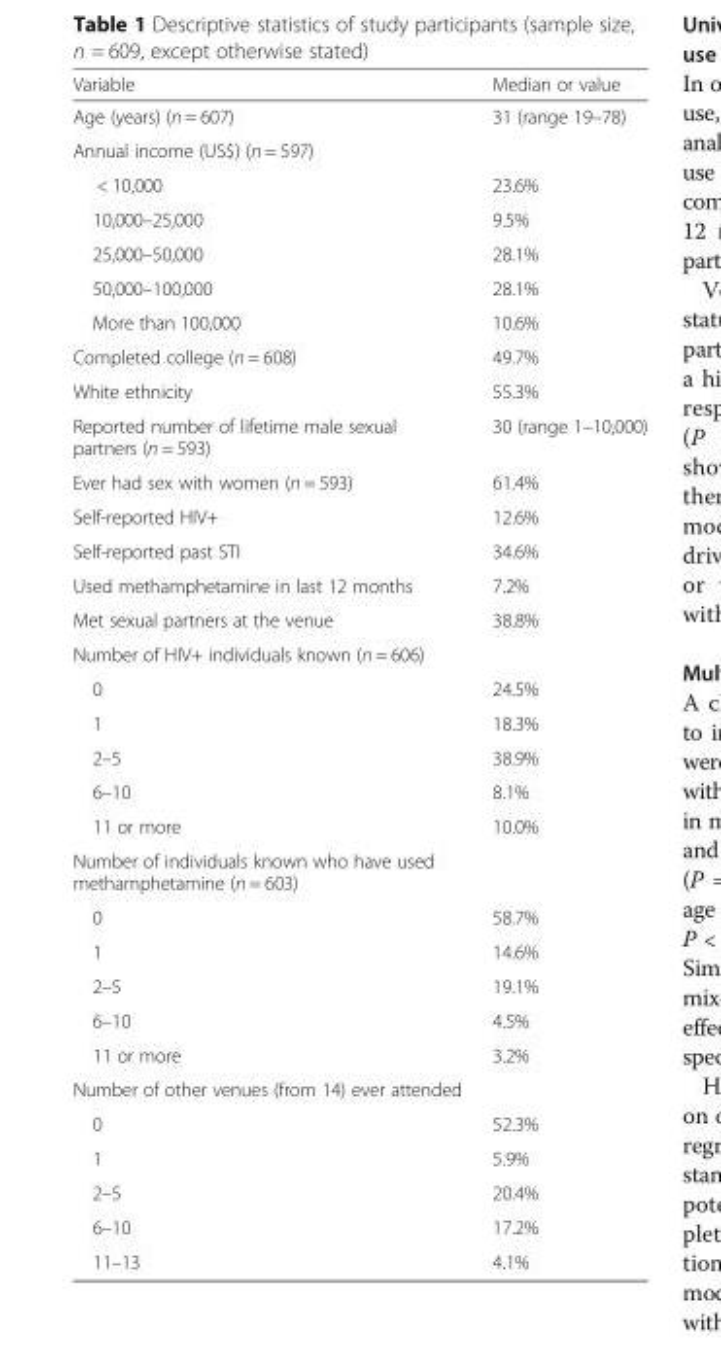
<table><thead><tr><td>Variable</td><td>Median or value</td></tr></thead><tbody><tr><td>Age (years) (n = 607)</td><td>31 (range 19–78)</td></tr><tr><td colspan="2">Annual income (US$) (n = 597)</td></tr><tr><td>&lt; 10,000</td><td>23.6%</td></tr><tr><td>10,000–25,000</td><td>9.5%</td></tr><tr><td>25,000–50,000</td><td>28.1%</td></tr><tr><td>50,000–100,000</td><td>28.1%</td></tr><tr><td>More than 100,000</td><td>10.6%</td></tr><tr><td>Completed college (n = 608)</td><td>49.7%</td></tr><tr><td>White ethnicity</td><td>55.3%</td></tr><tr><td>Reported number of lifetime male sexual partners (n = 593)</td><td>30 (range 1–10,000)</td></tr><tr><td>Ever had sex with women (n = 593)</td><td>61.4%</td></tr><tr><td>Self-reported HIV+</td><td>12.6%</td></tr><tr><td>Self-reported past STI</td><td>34.6%</td></tr><tr><td>Used methamphetamine in last 12 months</td><td>7.2%</td></tr><tr><td>Met sexual partners at the venue</td><td>38.8%</td></tr><tr><td colspan="2">Number of HIV+ individuals known (n = 606)</td></tr><tr><td>0</td><td>24.5%</td></tr><tr><td>1</td><td>18.3%</td></tr><tr><td>2–5</td><td>38.9%</td></tr><tr><td>6–10</td><td>8.1%</td></tr><tr><td>11 or more</td><td>10.0%</td></tr><tr><td colspan="2">Number of individuals known who have used methamphetamine (n = 603)</td></tr><tr><td>0</td><td>58.7%</td></tr><tr><td>1</td><td>14.6%</td></tr><tr><td>2–5</td><td>19.1%</td></tr><tr><td>6–10</td><td>4.5%</td></tr><tr><td>11 or more</td><td>3.2%</td></tr><tr><td colspan="2">Number of other venues (from 14) ever attended</td></tr><tr><td>0</td><td>52.3%</td></tr><tr><td>1</td><td>5.9%</td></tr><tr><td>2–5</td><td>20.4%</td></tr><tr><td>6–10</td><td>17.2%</td></tr><tr><td>11–13</td><td>4.1%</td></tr></tbody></table>